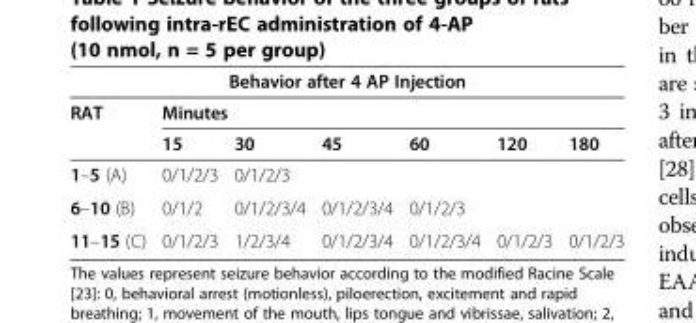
<table><thead><tr><td colspan="7">Behavior after 4 AP Injection</td></tr><tr><td rowspan="2">RAT</td><td colspan="6">Minutes</td></tr><tr><td>15</td><td>30</td><td>45</td><td>60</td><td>120</td><td>180</td></tr></thead><tbody><tr><td>1–5 (A)</td><td>0/1/2/3</td><td>0/1/2/3</td><td></td><td></td><td></td><td></td></tr><tr><td>6–10 (B)</td><td>0/1/2</td><td>0/1/2/3/4</td><td>0/1/2/3/4</td><td>0/1/2/3</td><td></td><td></td></tr><tr><td>11–15 (C)</td><td>0/1/2/3</td><td>1/2/3/4</td><td>0/1/2/3/4</td><td>0/1/2/3/4</td><td>0/1/2/3</td><td>0/1/2/3</td></tr></tbody></table>